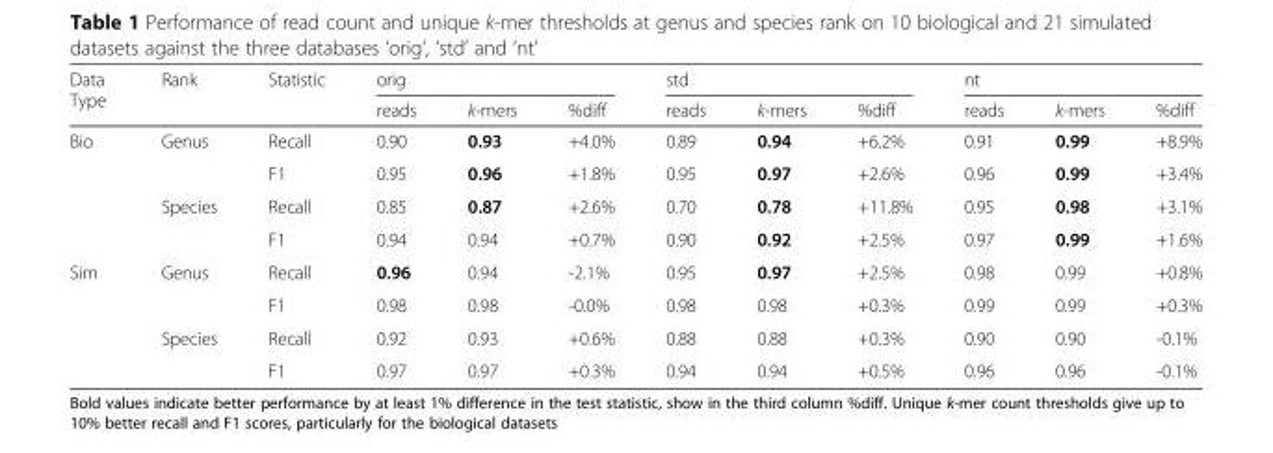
<table><thead><tr><td rowspan="2">Data Type</td><td rowspan="2">Rank</td><td rowspan="2">Statistic</td><td colspan="3">orig</td><td colspan="3">std</td><td colspan="3">nt</td></tr><tr><td>reads</td><td>k-mers</td><td>%diff</td><td>reads</td><td>k-mers</td><td>%diff</td><td>reads</td><td>k-mers</td><td>%diff</td></tr></thead><tbody><tr><td rowspan="4">Bio</td><td rowspan="2">Genus</td><td>Recall</td><td>0.90</td><td>0.93</td><td>+4.0%</td><td>0.89</td><td>0.94</td><td>+6.2%</td><td>0.91</td><td>0.99</td><td>+8.9%</td></tr><tr><td>F1</td><td>0.95</td><td>0.96</td><td>+1.8%</td><td>0.95</td><td>0.97</td><td>+2.6%</td><td>0.96</td><td>0.99</td><td>+3.4%</td></tr><tr><td rowspan="2">Species</td><td>Recall</td><td>0.85</td><td>0.87</td><td>+2.6%</td><td>0.70</td><td>0.78</td><td>+11.8%</td><td>0.95</td><td>0.98</td><td>+3.1%</td></tr><tr><td>F1</td><td>0.94</td><td>0.94</td><td>+0.7%</td><td>0.90</td><td>0.92</td><td>+2.5%</td><td>0.97</td><td>0.99</td><td>+1.6%</td></tr><tr><td rowspan="4">Sim</td><td rowspan="2">Genus</td><td>Recall</td><td>0.96</td><td>0.94</td><td>-2.1%</td><td>0.95</td><td>0.97</td><td>+2.5%</td><td>0.98</td><td>0.99</td><td>+0.8%</td></tr><tr><td>F1</td><td>0.98</td><td>0.98</td><td>-0.0%</td><td>0.98</td><td>0.98</td><td>+0.3%</td><td>0.99</td><td>0.99</td><td>+0.3%</td></tr><tr><td rowspan="2">Species</td><td>Recall</td><td>0.92</td><td>0.93</td><td>+0.6%</td><td>0.88</td><td>0.88</td><td>+0.3%</td><td>0.90</td><td>0.90</td><td>-0.1%</td></tr><tr><td>F1</td><td>0.97</td><td>0.97</td><td>+0.3%</td><td>0.94</td><td>0.94</td><td>+0.5%</td><td>0.96</td><td>0.96</td><td>-0.1%</td></tr></tbody></table>